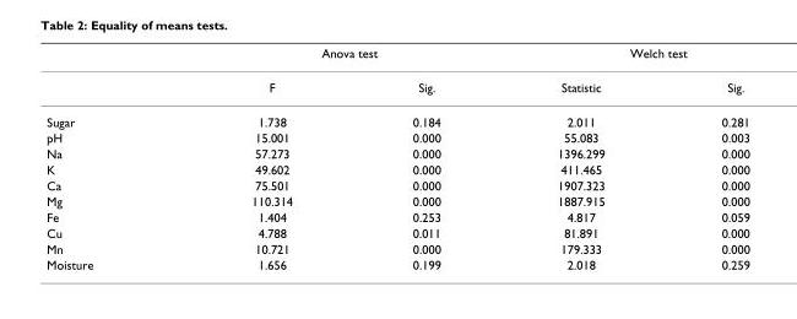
<table><thead><tr><td rowspan="2"></td><td colspan="2">Anova test</td><td colspan="2">Welch test</td></tr><tr><td>F</td><td>Sig.</td><td>Statistic</td><td>Sig.</td></tr></thead><tbody><tr><td>Sugar</td><td>1.738</td><td>0.184</td><td>2.011</td><td>0.281</td></tr><tr><td>pH</td><td>15.001</td><td>0.000</td><td>55.083</td><td>0.003</td></tr><tr><td>Na</td><td>57.273</td><td>0.000</td><td>1396.299</td><td>0.000</td></tr><tr><td>K</td><td>49.602</td><td>0.000</td><td>411.465</td><td>0.000</td></tr><tr><td>Ca</td><td>75.501</td><td>0.000</td><td>1907.323</td><td>0.000</td></tr><tr><td>Mg</td><td>110.314</td><td>0.000</td><td>1887.915</td><td>0.000</td></tr><tr><td>Fe</td><td>1.404</td><td>0.253</td><td>4.817</td><td>0.059</td></tr><tr><td>Cu</td><td>4.788</td><td>0.011</td><td>81.891</td><td>0.000</td></tr><tr><td>Mn</td><td>10.721</td><td>0.000</td><td>179.333</td><td>0.000</td></tr><tr><td>Moisture</td><td>1.656</td><td>0.199</td><td>2.018</td><td>0.259</td></tr></tbody></table>